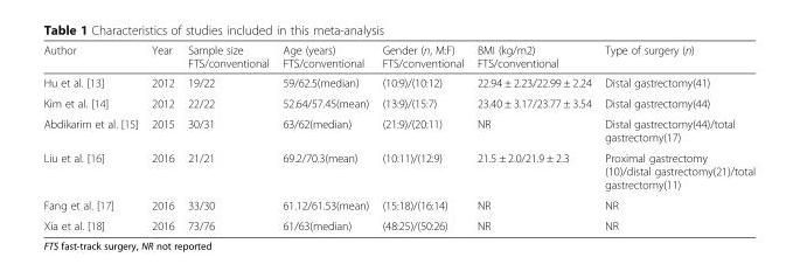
<table><thead><tr><td>Author</td><td>Year</td><td>Sample size FTS/conventional</td><td>Age (years) FTS/conventional</td><td>Gender (n, M:F) FTS/conventional</td><td>BMI (kg/m2) FTS/conventional</td><td>Type of surgery (n)</td></tr></thead><tbody><tr><td>Hu et al. [13]</td><td>2012</td><td>19/22</td><td>59/62.5(median)</td><td>(10:9)/(10:12)</td><td>22.94 ± 2.23/22.99 ± 2.24</td><td>Distal gastrectomy(41)</td></tr><tr><td>Kim et al. [14]</td><td>2012</td><td>22/22</td><td>52.64/57.45(mean)</td><td>(13:9)/(15:7)</td><td>23.40 ± 3.17/23.77 ± 3.54</td><td>Distal gastrectomy(44)</td></tr><tr><td>Abdikarim et al. [15]</td><td>2015</td><td>30/31</td><td>63/62(median)</td><td>(21:9)/(20:11)</td><td>NR</td><td>Distal gastrectomy(44)/total gastrectomy(17)</td></tr><tr><td>Liu et al. [16]</td><td>2016</td><td>21/21</td><td>69.2/70.3(mean)</td><td>(10:11)/(12:9)</td><td>21.5 ± 2.0/21.9 ± 2.3</td><td>Proximal gastrectomy (10)/distal gastrectomy(21)/total gastrectomy(11)</td></tr><tr><td>Fang et al. [17]</td><td>2016</td><td>33/30</td><td>61.12/61.53(mean)</td><td>(15:18)/(16:14)</td><td>NR</td><td>NR</td></tr><tr><td>Xia et al. [18]</td><td>2016</td><td>73/76</td><td>61/63(median)</td><td>(48:25)/(50:26)</td><td>NR</td><td>NR</td></tr></tbody></table>